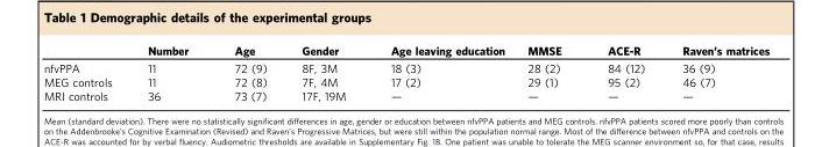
<table><thead><tr><td></td><td>Number</td><td>Age</td><td>Gender</td><td>Age leaving education</td><td>MMSE</td><td>ACE-R</td><td>Raven’s matrices</td></tr></thead><tbody><tr><td>nfvPPA</td><td>11</td><td>72 (9)</td><td>8F, 3M</td><td>18 (3)</td><td>28 (2)</td><td>84 (12)</td><td>36 (9)</td></tr><tr><td>MEG controls</td><td>11</td><td>72 (8)</td><td>7F, 4M</td><td>17 (2)</td><td>29 (1)</td><td>95 (2)</td><td>46 (7)</td></tr><tr><td>MRI controls</td><td>36</td><td>73 (7)</td><td>17F, 19M</td><td>—</td><td>—</td><td>—</td><td>—</td></tr></tbody></table>